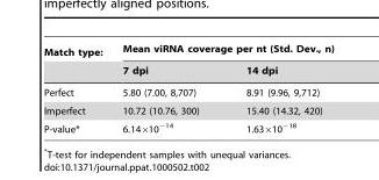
<table><thead><tr><td rowspan="2">Match type:</td><td colspan="2">Mean viRNA coverage per nt (Std. Dev., n)</td></tr><tr><td>7 dpi</td><td>14 dpi</td></tr></thead><tbody><tr><td>Perfect</td><td>5.80 (7.00, 8,707)</td><td>8.91 (9.96, 9,712)</td></tr><tr><td>Imperfect</td><td>10.72 (10.76, 300)</td><td>15.40 (14.32, 420)</td></tr><tr><td>P-value*</td><td>6.14×10<sup>−14</sup></td><td>1.63×10<sup>−18</sup></td></tr></tbody></table>